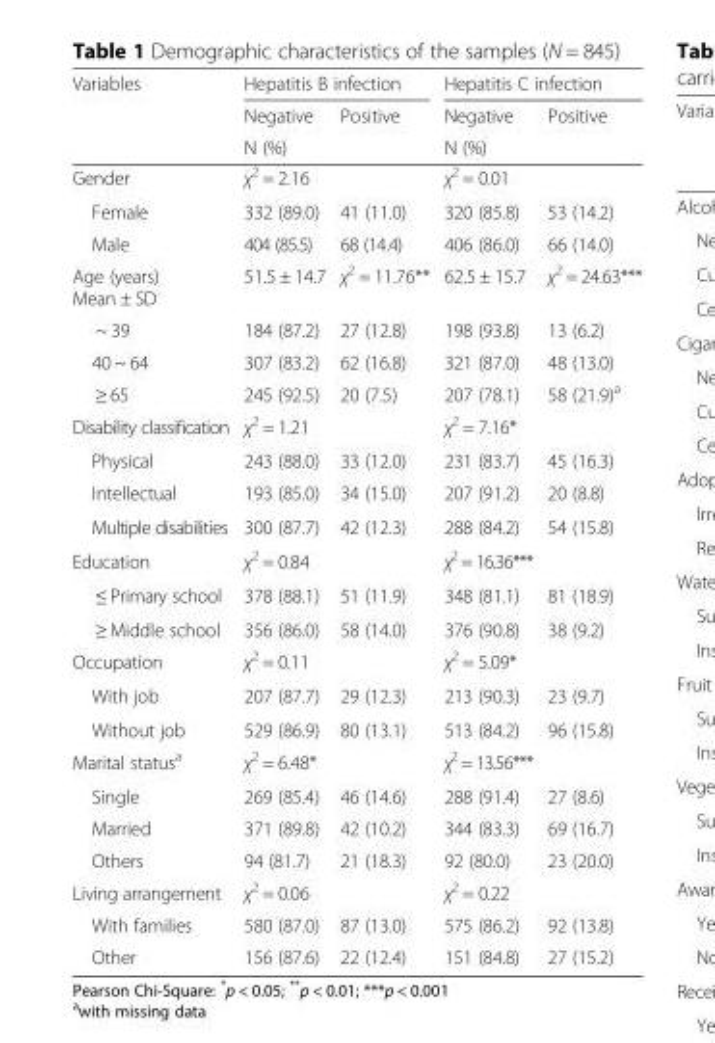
<table><thead><tr><td rowspan="3">Variables</td><td colspan="2">Hepatitis B infection</td><td colspan="2">Hepatitis C infection</td></tr><tr><td rowspan="2">Negative N (%)</td><td rowspan="2">Positive</td><td rowspan="2">Negative N (%)</td><td rowspan="2">Positive</td></tr><tr></tr></thead><tbody><tr><td>Gender</td><td>χ<sup>2</sup> = 2.16</td><td></td><td>χ<sup>2</sup> = 0.01</td><td></td></tr><tr><td>Female</td><td>332 (89.0)</td><td>41 (11.0)</td><td>320 (85.8)</td><td>53 (14.2)</td></tr><tr><td>Male</td><td>404 (85.5)</td><td>68 (14.4)</td><td>406 (86.0)</td><td>66 (14.0)</td></tr><tr><td>Age (years) Mean ± SD</td><td>51.5 ± 14.7</td><td>χ<sup>2</sup> = 11.76**</td><td>62.5 ± 15.7</td><td>χ<sup>2</sup> = 24.63***</td></tr><tr><td>~ 39</td><td>184 (87.2)</td><td>27 (12.8)</td><td>198 (93.8)</td><td>13 (6.2)</td></tr><tr><td>40 ~ 64</td><td>307 (83.2)</td><td>62 (16.8)</td><td>321 (87.0)</td><td>48 (13.0)</td></tr><tr><td>≥ 65</td><td>245 (92.5)</td><td>20 (7.5)</td><td>207 (78.1)</td><td>58 (21.9)<sup>a</sup></td></tr><tr><td>Disability classification</td><td>χ<sup>2</sup> = 1.21</td><td></td><td>χ<sup>2</sup> = 7.16*</td><td></td></tr><tr><td>Physical</td><td>243 (88.0)</td><td>33 (12.0)</td><td>231 (83.7)</td><td>45 (16.3)</td></tr><tr><td>Intellectual</td><td>193 (85.0)</td><td>34 (15.0)</td><td>207 (91.2)</td><td>20 (8.8)</td></tr><tr><td>Multiple disabilities</td><td>300 (87.7)</td><td>42 (12.3)</td><td>288 (84.2)</td><td>54 (15.8)</td></tr><tr><td>Education</td><td>χ<sup>2</sup> = 0.84</td><td></td><td>χ<sup>2</sup> = 16.36***</td><td></td></tr><tr><td>≤ Primary school</td><td>378 (88.1)</td><td>51 (11.9)</td><td>348 (81.1)</td><td>81 (18.9)</td></tr><tr><td>≥ Middle school</td><td>356 (86.0)</td><td>58 (14.0)</td><td>376 (90.8)</td><td>38 (9.2)</td></tr><tr><td>Occupation</td><td>χ<sup>2</sup> = 0.11</td><td></td><td>χ<sup>2</sup> = 5.09*</td><td></td></tr><tr><td>With job</td><td>207 (87.7)</td><td>29 (12.3)</td><td>213 (90.3)</td><td>23 (9.7)</td></tr><tr><td>Without job</td><td>529 (86.9)</td><td>80 (13.1)</td><td>513 (84.2)</td><td>96 (15.8)</td></tr><tr><td>Marital status<sup>a</sup></td><td>χ<sup>2</sup> = 6.48*</td><td></td><td>χ<sup>2</sup> = 13.56***</td><td></td></tr><tr><td>Single</td><td>269 (85.4)</td><td>46 (14.6)</td><td>288 (91.4)</td><td>27 (8.6)</td></tr><tr><td>Married</td><td>371 (89.8)</td><td>42 (10.2)</td><td>344 (83.3)</td><td>69 (16.7)</td></tr><tr><td>Others</td><td>94 (81.7)</td><td>21 (18.3)</td><td>92 (80.0)</td><td>23 (20.0)</td></tr><tr><td>Living arrangement</td><td>χ<sup>2</sup> = 0.06</td><td></td><td>χ<sup>2</sup> = 0.22</td><td></td></tr><tr><td>With families</td><td>580 (87.0)</td><td>87 (13.0)</td><td>575 (86.2)</td><td>92 (13.8)</td></tr><tr><td>Other</td><td>156 (87.6)</td><td>22 (12.4)</td><td>151 (84.8)</td><td>27 (15.2)</td></tr></tbody></table>